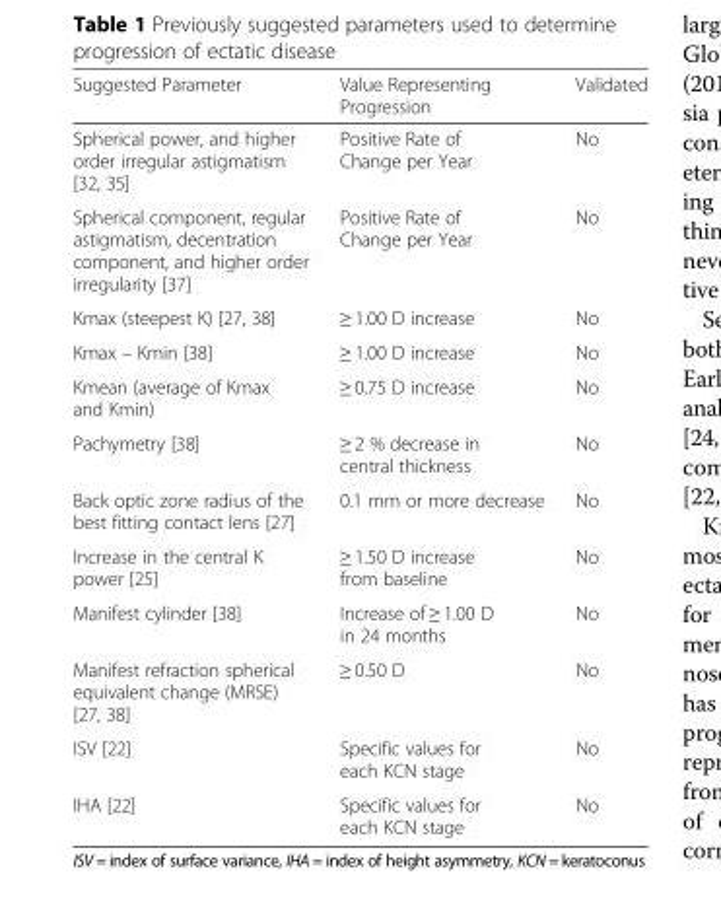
<table><thead><tr><td>Suggested Parameter</td><td>Value Representing Progression</td><td>Validated</td></tr></thead><tbody><tr><td>Spherical power, and higher order irregular astigmatism [32, 35]</td><td>Positive Rate of Change per Year</td><td>No</td></tr><tr><td>Spherical component, regular astigmatism, decentration component, and higher order irregularity [37]</td><td>Positive Rate of Change per Year</td><td>No</td></tr><tr><td>Kmax (steepest K) [27, 38]</td><td>≥ 1.00 D increase</td><td>No</td></tr><tr><td>Kmax – Kmin [38]</td><td>≥ 1.00 D increase</td><td>No</td></tr><tr><td>Kmean (average of Kmax and Kmin)</td><td>≥ 0.75 D increase</td><td>No</td></tr><tr><td>Pachymetry [38]</td><td>≥ 2 % decrease in central thickness</td><td>No</td></tr><tr><td>Back optic zone radius of the best fitting contact lens [27]</td><td>0.1 mm or more decrease</td><td>No</td></tr><tr><td>Increase in the central K power [25]</td><td>≥ 1.50 D increase from baseline</td><td>No</td></tr><tr><td>Manifest cylinder [38]</td><td>Increase of ≥ 1.00 D in 24 months</td><td>No</td></tr><tr><td>Manifest refraction spherical equivalent change (MRSE) [27, 38]</td><td>≥ 0.50 D</td><td>No</td></tr><tr><td>ISV [22]</td><td>Specific values for each KCN stage</td><td>No</td></tr><tr><td>IHA [22]</td><td>Specific values for each KCN stage</td><td>No</td></tr></tbody></table>